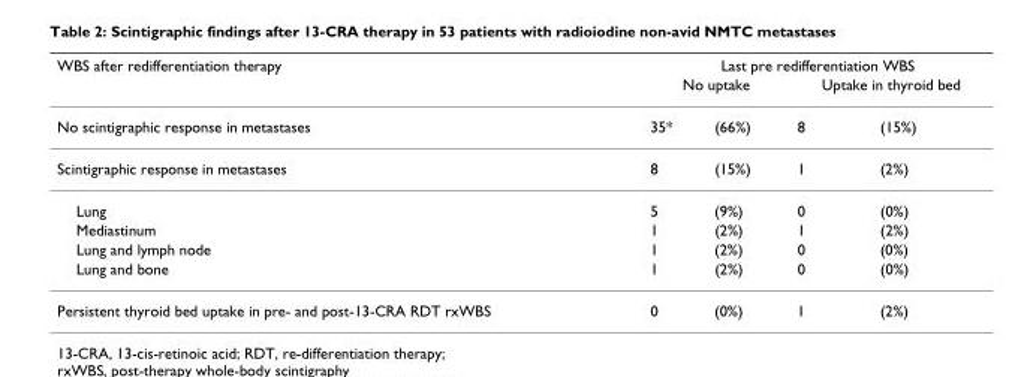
<table><thead><tr><td rowspan="3">WBS after redifferentiation therapy No scintigraphic response in metastases</td><td colspan="4">Last pre redifferentiation WBS</td></tr><tr><td colspan="2">No uptake</td><td colspan="2">Uptake in thyroid bed</td></tr><tr><td>35*</td><td>(66%)</td><td>8</td><td>(15%)</td></tr></thead><tbody><tr><td>Scintigraphic response in metastases</td><td>8</td><td>(15%)</td><td>1</td><td>(2%)</td></tr><tr><td>Lung</td><td>5</td><td>(9%)</td><td>0</td><td>(0%)</td></tr><tr><td>Mediastinum</td><td>1</td><td>(2%)</td><td>1</td><td>(2%)</td></tr><tr><td>Lung and lymph node</td><td>1</td><td>(2%)</td><td>0</td><td>(0%)</td></tr><tr><td>Lung and bone</td><td>1</td><td>(2%)</td><td>0</td><td>(0%)</td></tr><tr><td>Persistent thyroid bed uptake in pre- and post-13-CRA RDT rxWBS</td><td>0</td><td>(0%)</td><td>1</td><td>(2%)</td></tr></tbody></table>